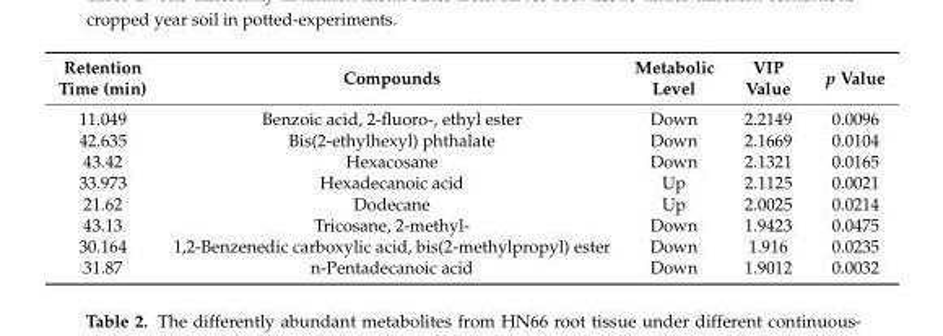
<table><thead><tr><td>Retention Time (min)</td><td>Compounds</td><td>Metabolic Level</td><td>VIP Value</td><td>p Value</td></tr></thead><tbody><tr><td>11.049</td><td>Benzoic acid, 2-fluoro-, ethyl ester</td><td>Down</td><td>2.2149</td><td>0.0096</td></tr><tr><td>42.635</td><td>Bis(2-ethylhexyl) phthalate</td><td>Down</td><td>2.1669</td><td>0.0104</td></tr><tr><td>43.42</td><td>Hexacosane</td><td>Down</td><td>2.1321</td><td>0.0165</td></tr><tr><td>33.973</td><td>Hexadecanoic acid</td><td>Up</td><td>2.1125</td><td>0.0021</td></tr><tr><td>21.62</td><td>Dodecane</td><td>Up</td><td>2.0025</td><td>0.0214</td></tr><tr><td>43.13</td><td>Tricosane, 2-methyl-</td><td>Down</td><td>1.9423</td><td>0.0475</td></tr><tr><td>30.164</td><td>1,2-Benzenedic carboxylic acid, bis(2-methylpropyl) ester</td><td>Down</td><td>1.916</td><td>0.0235</td></tr><tr><td>31.87</td><td>n-Pentadecanoic acid</td><td>Down</td><td>1.9012</td><td>0.0032</td></tr></tbody></table>